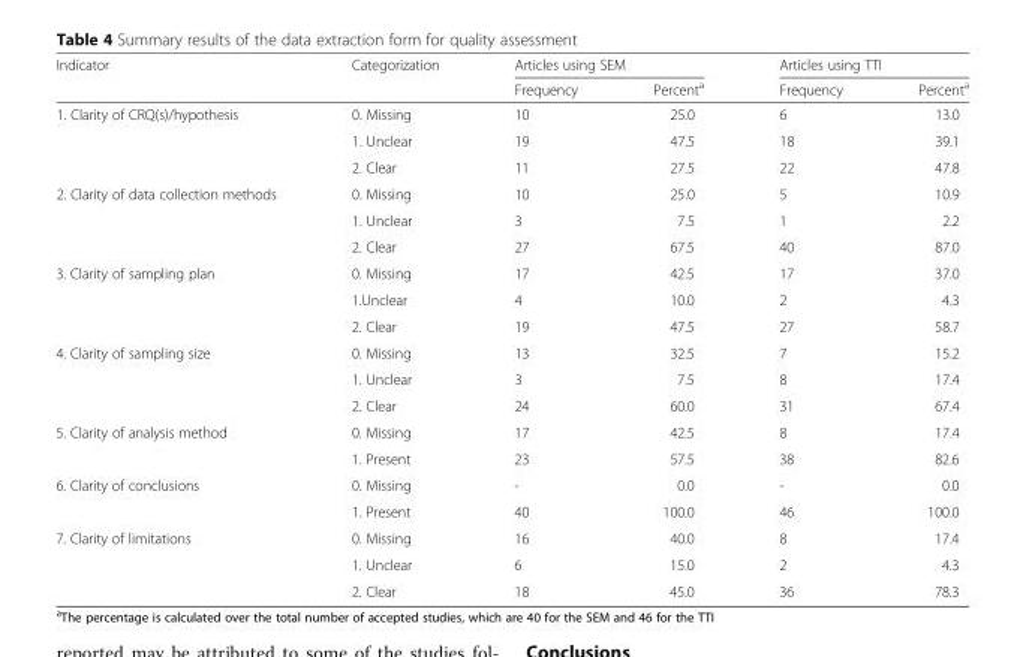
<table><thead><tr><td rowspan="2">Indicator</td><td rowspan="2">Categorization</td><td colspan="2">Articles using SEM</td><td colspan="2">Articles using TTI</td></tr><tr><td>Frequency</td><td>Percent<sup>a</sup></td><td>Frequency</td><td>Percent<sup>a</sup></td></tr></thead><tbody><tr><td rowspan="3">1. Clarity of CRQ(s)/hypothesis</td><td>0. Missing</td><td>10</td><td>25.0</td><td>6</td><td>13.0</td></tr><tr><td>1. Unclear</td><td>19</td><td>47.5</td><td>18</td><td>39.1</td></tr><tr><td>2. Clear</td><td>11</td><td>27.5</td><td>22</td><td>47.8</td></tr><tr><td rowspan="3">2. Clarity of data collection methods</td><td>0. Missing</td><td>10</td><td>25.0</td><td>5</td><td>10.9</td></tr><tr><td>1. Unclear</td><td>3</td><td>7.5</td><td>1</td><td>2.2</td></tr><tr><td>2. Clear</td><td>27</td><td>67.5</td><td>40</td><td>87.0</td></tr><tr><td rowspan="3">3. Clarity of sampling plan</td><td>0. Missing</td><td>17</td><td>42.5</td><td>17</td><td>37.0</td></tr><tr><td>1.Unclear</td><td>4</td><td>10.0</td><td>2</td><td>4.3</td></tr><tr><td>2. Clear</td><td>19</td><td>47.5</td><td>27</td><td>58.7</td></tr><tr><td rowspan="3">4. Clarity of sampling size</td><td>0. Missing</td><td>13</td><td>32.5</td><td>7</td><td>15.2</td></tr><tr><td>1. Unclear</td><td>3</td><td>7.5</td><td>8</td><td>17.4</td></tr><tr><td>2. Clear</td><td>24</td><td>60.0</td><td>31</td><td>67.4</td></tr><tr><td rowspan="2">5. Clarity of analysis method</td><td>0. Missing</td><td>17</td><td>42.5</td><td>8</td><td>17.4</td></tr><tr><td>1. Present</td><td>23</td><td>57.5</td><td>38</td><td>82.6</td></tr><tr><td rowspan="2">6. Clarity of conclusions</td><td>0. Missing</td><td>-</td><td>0.0</td><td>-</td><td>0.0</td></tr><tr><td>1. Present</td><td>40</td><td>100.0</td><td>46</td><td>100.0</td></tr><tr><td rowspan="3">7. Clarity of limitations</td><td>0. Missing</td><td>16</td><td>40.0</td><td>8</td><td>17.4</td></tr><tr><td>1. Unclear</td><td>6</td><td>15.0</td><td>2</td><td>4.3</td></tr><tr><td>2. Clear</td><td>18</td><td>45.0</td><td>36</td><td>78.3</td></tr></tbody></table>